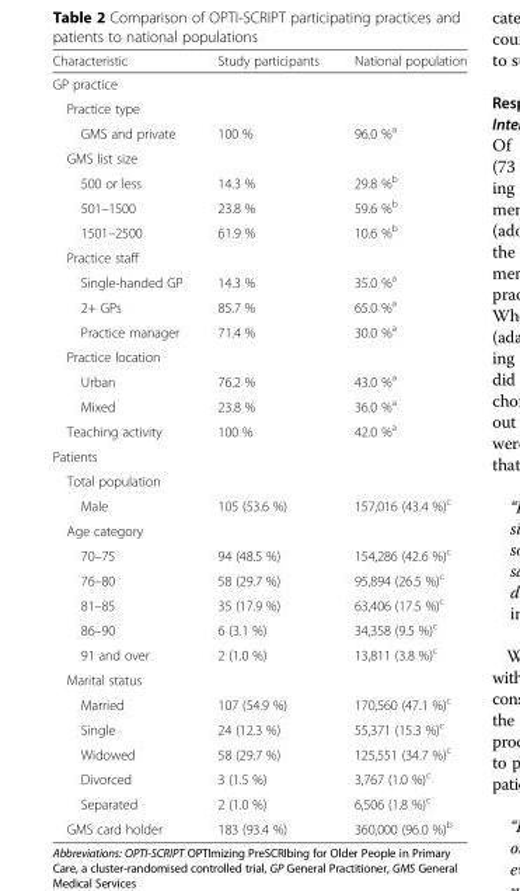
<table><thead><tr><td>Characteristic</td><td>Study participants</td><td>National population</td></tr></thead><tbody><tr><td colspan="3">GP practice</td></tr><tr><td colspan="3">Practice type</td></tr><tr><td>GMS and private</td><td>100 %</td><td>96.0 %<sup>a</sup></td></tr><tr><td colspan="3">GMS list size</td></tr><tr><td>500 or less</td><td>14.3 %</td><td>29.8 %<sup>b</sup></td></tr><tr><td>501–1500</td><td>23.8 %</td><td>59.6 %<sup>b</sup></td></tr><tr><td>1501–2500</td><td>61.9 %</td><td>10.6 %<sup>b</sup></td></tr><tr><td colspan="3">Practice staff</td></tr><tr><td>Single-handed GP</td><td>14.3 %</td><td>35.0 %<sup>a</sup></td></tr><tr><td>2+ GPs</td><td>85.7 %</td><td>65.0 %<sup>a</sup></td></tr><tr><td>Practice manager</td><td>71.4 %</td><td>30.0 %<sup>a</sup></td></tr><tr><td colspan="3">Practice location</td></tr><tr><td>Urban</td><td>76.2 %</td><td>43.0 %<sup>a</sup></td></tr><tr><td>Mixed</td><td>23.8 %</td><td>36.0 %<sup>a</sup></td></tr><tr><td>Teaching activity</td><td>100 %</td><td>42.0 %<sup>a</sup></td></tr><tr><td colspan="3">Patients</td></tr><tr><td colspan="3">Total population</td></tr><tr><td>Male</td><td>105 (53.6 %)</td><td>157,016 (43.4 %)<sup>c</sup></td></tr><tr><td colspan="3">Age category</td></tr><tr><td>70–75</td><td>94 (48.5 %)</td><td>154,286 (42.6 %)<sup>c</sup></td></tr><tr><td>76–80</td><td>58 (29.7 %)</td><td>95,894 (26.5 %)<sup>c</sup></td></tr><tr><td>81–85</td><td>35 (17.9 %)</td><td>63,406 (17.5 %)<sup>c</sup></td></tr><tr><td>86–90</td><td>6 (3.1 %)</td><td>34,358 (9.5 %)<sup>c</sup></td></tr><tr><td>91 and over</td><td>2 (1.0 %)</td><td>13,811 (3.8 %)<sup>c</sup></td></tr><tr><td colspan="3">Marital status</td></tr><tr><td>Married</td><td>107 (54.9 %)</td><td>170,560 (47.1 %)<sup>c</sup></td></tr><tr><td>Single</td><td>24 (12.3 %)</td><td>55,371 (15.3 %)<sup>c</sup></td></tr><tr><td>Widowed</td><td>58 (29.7 %)</td><td>125,551 (34.7 %)<sup>c</sup></td></tr><tr><td>Divorced</td><td>3 (1.5 %)</td><td>3,767 (1.0 %)<sup>c</sup></td></tr><tr><td>Separated</td><td>2 (1.0 %)</td><td>6,506 (1.8 %)<sup>c</sup></td></tr><tr><td>GMS card holder</td><td>183 (93.4 %)</td><td>360,000 (96.0 %)<sup>b</sup></td></tr></tbody></table>